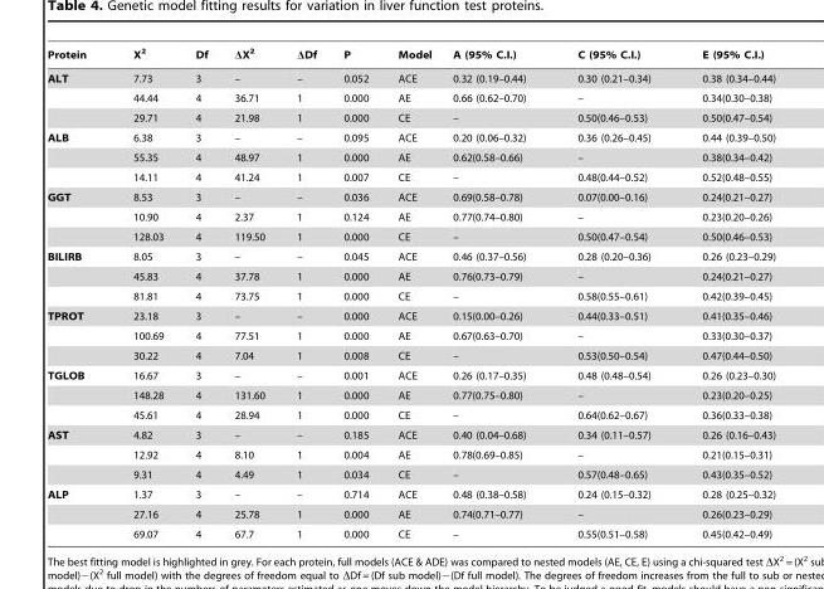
<table><thead><tr><td>Protein</td><td>X<sup>2</sup></td><td>Df</td><td>ΔX<sup>2</sup></td><td>ΔDf</td><td>P</td><td>Model</td><td>A (95% C.I.)</td><td>C (95% C.I.)</td><td>E (95% C.I.)</td></tr></thead><tbody><tr><td rowspan="3">ALT</td><td>7.73</td><td>3</td><td>–</td><td>–</td><td>0.052</td><td>ACE</td><td>0.32 (0.19–0.44)</td><td>0.30 (0.21–0.34)</td><td>0.38 (0.34–0.44)</td></tr><tr><td>44.44</td><td>4</td><td>36.71</td><td>1</td><td>0.000</td><td>AE</td><td>0.66 (0.62–0.70)</td><td>–</td><td>0.34(0.30–0.38)</td></tr><tr><td>29.71</td><td>4</td><td>21.98</td><td>1</td><td>0.000</td><td>CE</td><td>–</td><td>0.50(0.46–0.53)</td><td>0.50(0.47–0.54)</td></tr><tr><td rowspan="3">ALB</td><td>6.38</td><td>3</td><td>–</td><td>–</td><td>0.095</td><td>ACE</td><td>0.20 (0.06–0.32)</td><td>0.36 (0.26–0.45)</td><td>0.44 (0.39–0.50)</td></tr><tr><td>55.35</td><td>4</td><td>48.97</td><td>1</td><td>0.000</td><td>AE</td><td>0.62(0.58–0.66)</td><td>–</td><td>0.38(0.34–0.42)</td></tr><tr><td>14.11</td><td>4</td><td>41.24</td><td>1</td><td>0.007</td><td>CE</td><td>–</td><td>0.48(0.44–0.52)</td><td>0.52(0.48–0.55)</td></tr><tr><td rowspan="3">GGT</td><td>8.53</td><td>3</td><td>–</td><td>–</td><td>0.036</td><td>ACE</td><td>0.69(0.58–0.78)</td><td>0.07(0.00–0.16)</td><td>0.24(0.21–0.27)</td></tr><tr><td>10.90</td><td>4</td><td>2.37</td><td>1</td><td>0.124</td><td>AE</td><td>0.77(0.74–0.80)</td><td>–</td><td>0.23(0.20–0.26)</td></tr><tr><td>128.03</td><td>4</td><td>119.50</td><td>1</td><td>0.000</td><td>CE</td><td>–</td><td>0.50(0.47–0.54)</td><td>0.50(0.46–0.53)</td></tr><tr><td rowspan="3">BILIRB</td><td>8.05</td><td>3</td><td>–</td><td>–</td><td>0.045</td><td>ACE</td><td>0.46 (0.37–0.56)</td><td>0.28 (0.20–0.36)</td><td>0.26 (0.23–0.29)</td></tr><tr><td>45.83</td><td>4</td><td>37.78</td><td>1</td><td>0.000</td><td>AE</td><td>0.76(0.73–0.79)</td><td>–</td><td>0.24(0.21–0.27)</td></tr><tr><td>81.81</td><td>4</td><td>73.75</td><td>1</td><td>0.000</td><td>CE</td><td>–</td><td>0.58(0.55–0.61)</td><td>0.42(0.39–0.45)</td></tr><tr><td rowspan="3">TPROT</td><td>23.18</td><td>3</td><td>–</td><td>–</td><td>0.000</td><td>ACE</td><td>0.15(0.00–0.26)</td><td>0.44(0.33–0.51)</td><td>0.41(0.35–0.46)</td></tr><tr><td>100.69</td><td>4</td><td>77.51</td><td>1</td><td>0.000</td><td>AE</td><td>0.67(0.63–0.70)</td><td>–</td><td>0.33(0.30–0.37)</td></tr><tr><td>30.22</td><td>4</td><td>7.04</td><td>1</td><td>0.008</td><td>CE</td><td>–</td><td>0.53(0.50–0.54)</td><td>0.47(0.44–0.50)</td></tr><tr><td rowspan="3">TGLOB</td><td>16.67</td><td>3</td><td>–</td><td>–</td><td>0.001</td><td>ACE</td><td>0.26 (0.17–0.35)</td><td>0.48 (0.48–0.54)</td><td>0.26 (0.23–0.30)</td></tr><tr><td>148.28</td><td>4</td><td>131.60</td><td>1</td><td>0.000</td><td>AE</td><td>0.77(0.75–0.80)</td><td>–</td><td>0.23(0.20–0.25)</td></tr><tr><td>45.61</td><td>4</td><td>28.94</td><td>1</td><td>0.000</td><td>CE</td><td>–</td><td>0.64(0.62–0.67)</td><td>0.36(0.33–0.38)</td></tr><tr><td rowspan="3">AST</td><td>4.82</td><td>3</td><td>–</td><td>–</td><td>0.185</td><td>ACE</td><td>0.40 (0.04–0.68)</td><td>0.34 (0.11–0.57)</td><td>0.26 (0.16–0.43)</td></tr><tr><td>12.92</td><td>4</td><td>8.10</td><td>1</td><td>0.004</td><td>AE</td><td>0.78(0.69–0.85)</td><td>–</td><td>0.21(0.15–0.31)</td></tr><tr><td>9.31</td><td>4</td><td>4.49</td><td>1</td><td>0.034</td><td>CE</td><td>–</td><td>0.57(0.48–0.65)</td><td>0.43(0.35–0.52)</td></tr><tr><td rowspan="3">ALP</td><td>1.37</td><td>3</td><td>–</td><td>–</td><td>0.714</td><td>ACE</td><td>0.48 (0.38–0.58)</td><td>0.24 (0.15–0.32)</td><td>0.28 (0.25–0.32)</td></tr><tr><td>27.16</td><td>4</td><td>25.78</td><td>1</td><td>0.000</td><td>AE</td><td>0.74(0.71–0.77)</td><td>–</td><td>0.26(0.23–0.29)</td></tr><tr><td>69.07</td><td>4</td><td>67.7</td><td>1</td><td>0.000</td><td>CE</td><td>–</td><td>0.55(0.51–0.58)</td><td>0.45(0.42–0.49)</td></tr></tbody></table>